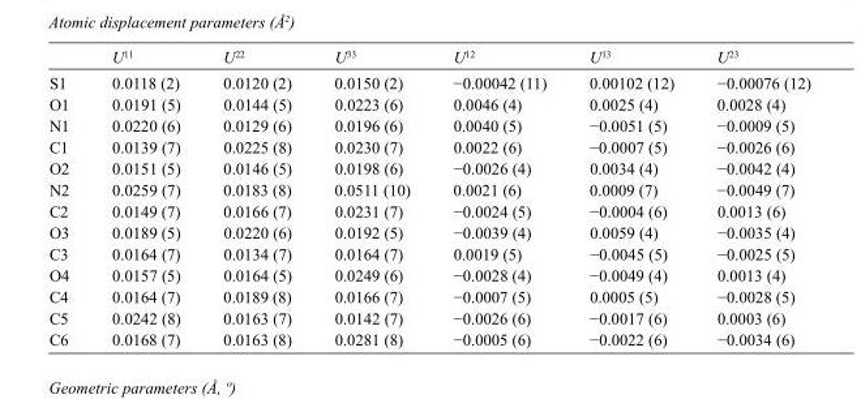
<table><thead><tr><td></td><td>U<sup>11</sup></td><td>U<sup>22</sup></td><td>U<sup>33</sup></td><td>U<sup>12</sup></td><td>U<sup>13</sup></td><td>U<sup>23</sup></td></tr></thead><tbody><tr><td>S1</td><td>0.0118 (2)</td><td>0.0120 (2)</td><td>0.0150 (2)</td><td>−0.00042 (11)</td><td>0.00102 (12)</td><td>−0.00076 (12)</td></tr><tr><td>O1</td><td>0.0191 (5)</td><td>0.0144 (5)</td><td>0.0223 (6)</td><td>0.0046 (4)</td><td>0.0025 (4)</td><td>0.0028 (4)</td></tr><tr><td>N1</td><td>0.0220 (6)</td><td>0.0129 (6)</td><td>0.0196 (6)</td><td>0.0040 (5)</td><td>−0.0051 (5)</td><td>−0.0009 (5)</td></tr><tr><td>C1</td><td>0.0139 (7)</td><td>0.0225 (8)</td><td>0.0230 (7)</td><td>0.0022 (6)</td><td>−0.0007 (5)</td><td>−0.0026 (6)</td></tr><tr><td>O2</td><td>0.0151 (5)</td><td>0.0146 (5)</td><td>0.0198 (6)</td><td>−0.0026 (4)</td><td>0.0034 (4)</td><td>−0.0042 (4)</td></tr><tr><td>N2</td><td>0.0259 (7)</td><td>0.0183 (8)</td><td>0.0511 (10)</td><td>0.0021 (6)</td><td>0.0009 (7)</td><td>−0.0049 (7)</td></tr><tr><td>C2</td><td>0.0149 (7)</td><td>0.0166 (7)</td><td>0.0231 (7)</td><td>−0.0024 (5)</td><td>−0.0004 (6)</td><td>0.0013 (6)</td></tr><tr><td>O3</td><td>0.0189 (5)</td><td>0.0220 (6)</td><td>0.0192 (5)</td><td>−0.0039 (4)</td><td>0.0059 (4)</td><td>−0.0035 (4)</td></tr><tr><td>C3</td><td>0.0164 (7)</td><td>0.0134 (7)</td><td>0.0164 (7)</td><td>0.0019 (5)</td><td>−0.0045 (5)</td><td>−0.0025 (5)</td></tr><tr><td>O4</td><td>0.0157 (5)</td><td>0.0164 (5)</td><td>0.0249 (6)</td><td>−0.0028 (4)</td><td>−0.0049 (4)</td><td>0.0013 (4)</td></tr><tr><td>C4</td><td>0.0164 (7)</td><td>0.0189 (8)</td><td>0.0166 (7)</td><td>−0.0007 (5)</td><td>0.0005 (5)</td><td>−0.0028 (5)</td></tr><tr><td>C5</td><td>0.0242 (8)</td><td>0.0163 (7)</td><td>0.0142 (7)</td><td>−0.0026 (6)</td><td>−0.0017 (6)</td><td>0.0003 (6)</td></tr><tr><td>C6</td><td>0.0168 (7)</td><td>0.0163 (8)</td><td>0.0281 (8)</td><td>−0.0005 (6)</td><td>−0.0022 (6)</td><td>−0.0034 (6)</td></tr></tbody></table>